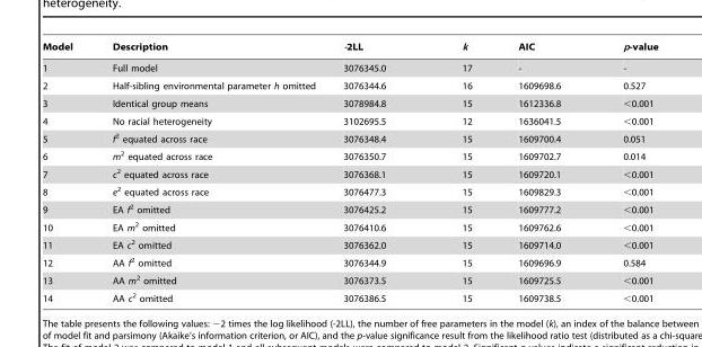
<table><thead><tr><td>Model</td><td>Description</td><td>-2LL</td><td>k</td><td>AIC</td><td>p-value</td></tr></thead><tbody><tr><td>1</td><td>Full model</td><td>3076345.0</td><td>17</td><td>-</td><td>-</td></tr><tr><td>2</td><td>Half-sibling environmental parameter h omitted</td><td>3076344.6</td><td>16</td><td>1609698.6</td><td>0.527</td></tr><tr><td>3</td><td>Identical group means</td><td>3078984.8</td><td>15</td><td>1612336.8</td><td>&lt;0.001</td></tr><tr><td>4</td><td>No racial heterogeneity</td><td>3102695.5</td><td>12</td><td>1636041.5</td><td>&lt;0.001</td></tr><tr><td>5</td><td>f<sup>2</sup> equated across race</td><td>3076348.4</td><td>15</td><td>1609700.4</td><td>0.051</td></tr><tr><td>6</td><td>m<sup>2</sup> equated across race</td><td>3076350.7</td><td>15</td><td>1609702.7</td><td>0.014</td></tr><tr><td>7</td><td>c<sup>2</sup> equated across race</td><td>3076368.1</td><td>15</td><td>1609720.1</td><td>&lt;0.001</td></tr><tr><td>8</td><td>e<sup>2</sup> equated across race</td><td>3076477.3</td><td>15</td><td>1609829.3</td><td>&lt;0.001</td></tr><tr><td>9</td><td>EA f<sup>2</sup> omitted</td><td>3076425.2</td><td>15</td><td>1609777.2</td><td>&lt;0.001</td></tr><tr><td>10</td><td>EA m<sup>2</sup> omitted</td><td>3076410.6</td><td>15</td><td>1609762.6</td><td>&lt;0.001</td></tr><tr><td>11</td><td>EA c<sup>2</sup> omitted</td><td>3076362.0</td><td>15</td><td>1609714.0</td><td>&lt;0.001</td></tr><tr><td>12</td><td>AA f<sup>2</sup> omitted</td><td>3076344.9</td><td>15</td><td>1609696.9</td><td>0.584</td></tr><tr><td>13</td><td>AA m<sup>2</sup> omitted</td><td>3076373.5</td><td>15</td><td>1609725.5</td><td>&lt;0.001</td></tr><tr><td>14</td><td>AA c<sup>2</sup> omitted</td><td>3076386.5</td><td>15</td><td>1609738.5</td><td>&lt;0.001</td></tr></tbody></table>